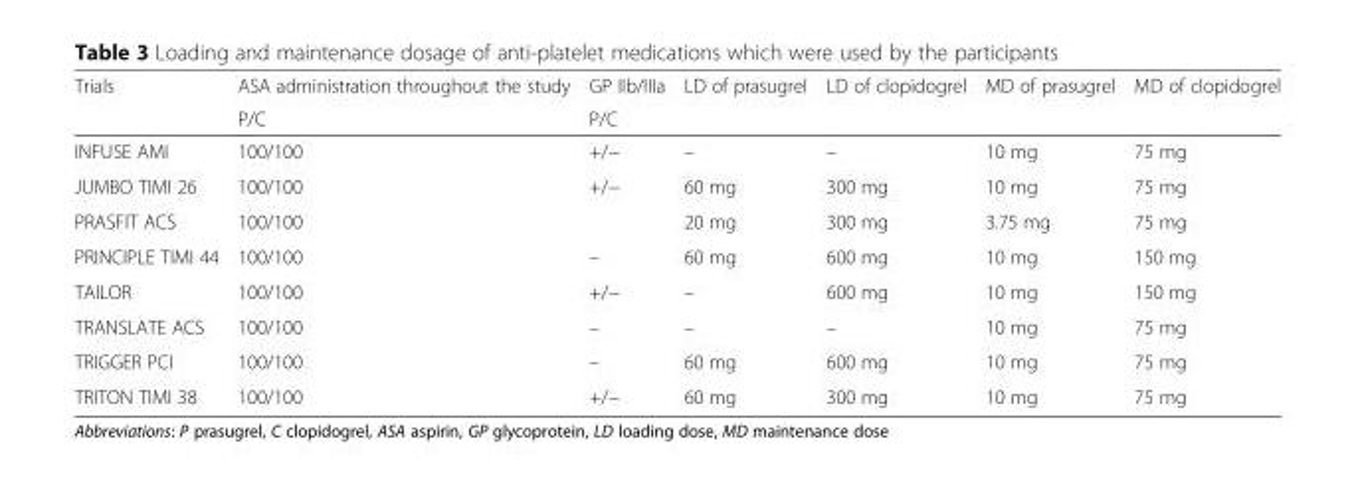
<table><thead><tr><td rowspan="2">Trials</td><td rowspan="2">ASA administration throughout the study P/C</td><td rowspan="2">GP IIb/IIIa P/C</td><td rowspan="2">LD of prasugrel</td><td rowspan="2">LD of clopidogrel</td><td rowspan="2">MD of prasugrel</td><td rowspan="2">MD of clopidogrel</td></tr><tr></tr></thead><tbody><tr><td>INFUSE AMI</td><td>100/100</td><td>+/−</td><td>–</td><td>–</td><td>10 mg</td><td>75 mg</td></tr><tr><td>JUMBO TIMI 26</td><td>100/100</td><td>+/−</td><td>60 mg</td><td>300 mg</td><td>10 mg</td><td>75 mg</td></tr><tr><td>PRASFIT ACS</td><td>100/100</td><td></td><td>20 mg</td><td>300 mg</td><td>3.75 mg</td><td>75 mg</td></tr><tr><td>PRINCIPLE TIMI 44</td><td>100/100</td><td>–</td><td>60 mg</td><td>600 mg</td><td>10 mg</td><td>150 mg</td></tr><tr><td>TAILOR</td><td>100/100</td><td>+/−</td><td>–</td><td>600 mg</td><td>10 mg</td><td>150 mg</td></tr><tr><td>TRANSLATE ACS</td><td>100/100</td><td>–</td><td>–</td><td>–</td><td>10 mg</td><td>75 mg</td></tr><tr><td>TRIGGER PCI</td><td>100/100</td><td>–</td><td>60 mg</td><td>600 mg</td><td>10 mg</td><td>75 mg</td></tr><tr><td>TRITON TIMI 38</td><td>100/100</td><td>+/−</td><td>60 mg</td><td>300 mg</td><td>10 mg</td><td>75 mg</td></tr></tbody></table>